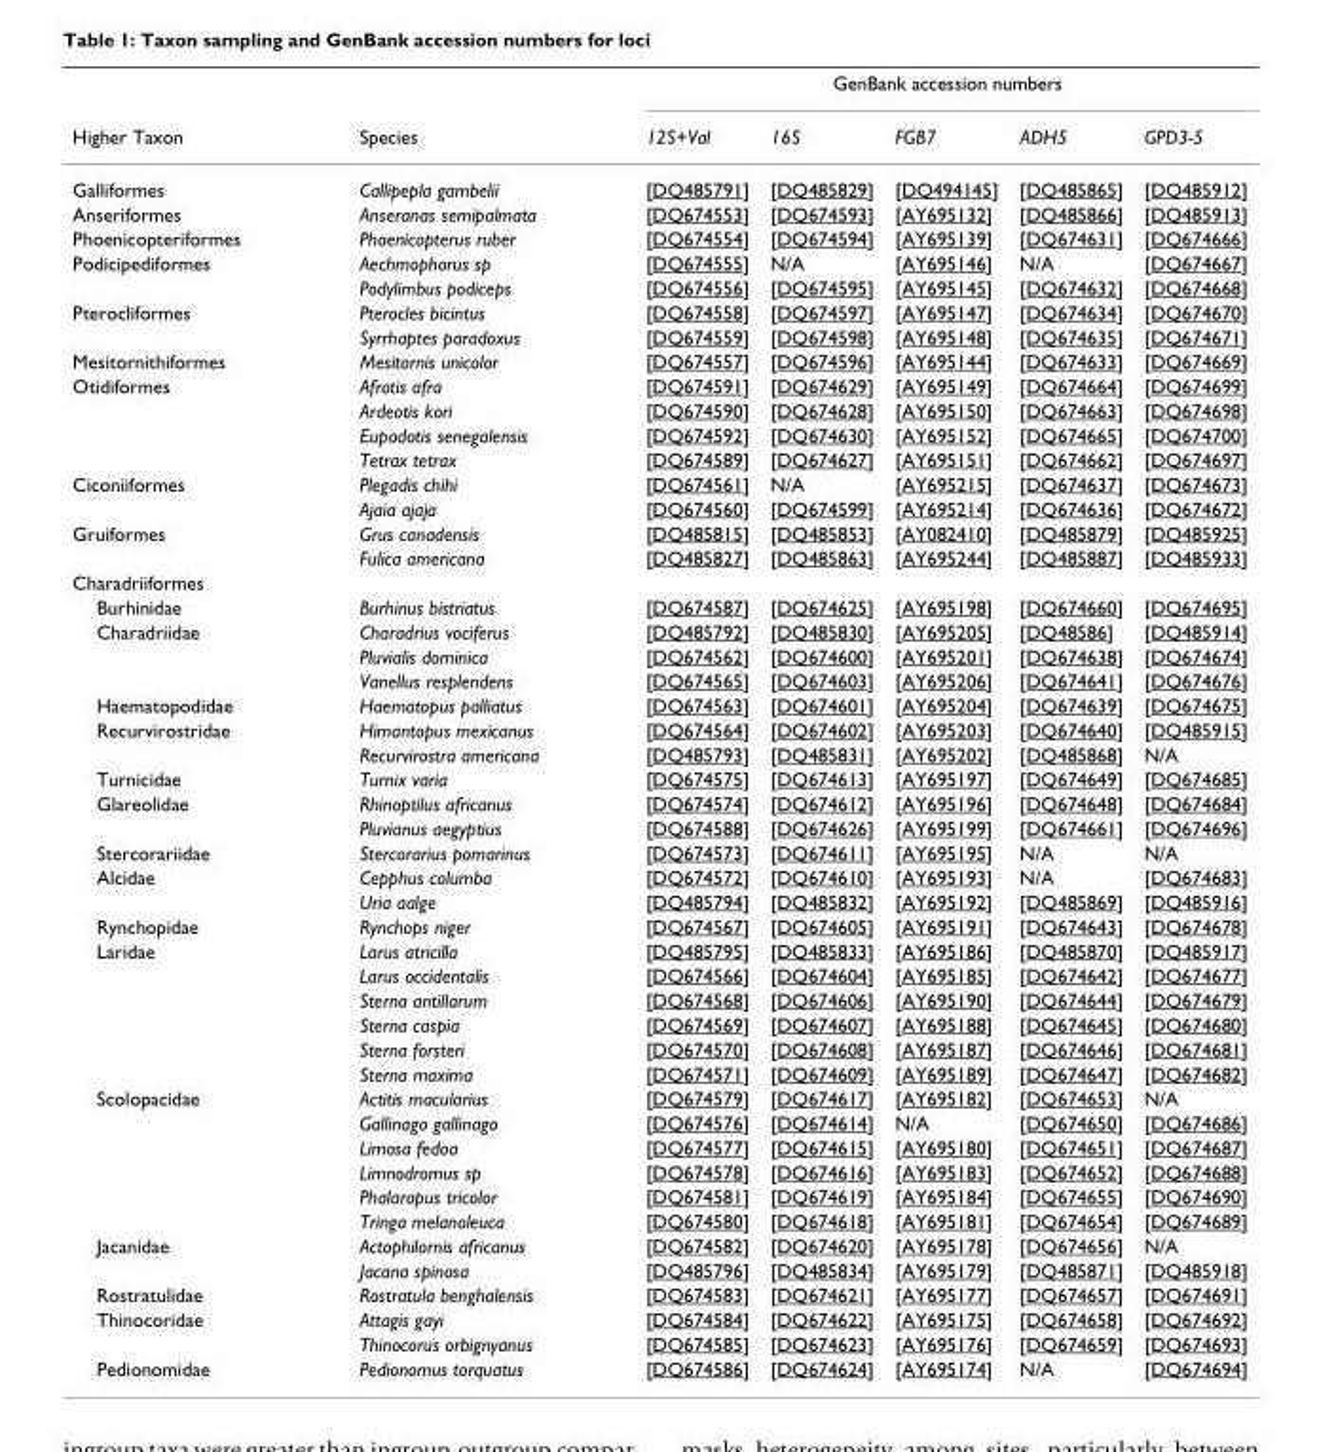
<table><thead><tr><td rowspan="2">Higher Taxon</td><td rowspan="2">Species</td><td colspan="5">GenBank accession numbers</td></tr><tr><td>12S+Val</td><td>16S</td><td>FGB7</td><td>ADH5</td><td>GPD3-5</td></tr></thead><tbody><tr><td>Galliformes</td><td>Callipepla gambelii</td><td>[DQ485791]</td><td>[DQ485829]</td><td>[DQ494145]</td><td>[DQ485865]</td><td>[DQ485912]</td></tr><tr><td>Anseriformes</td><td>Anseranas semipalmata</td><td>[DQ674553]</td><td>[DQ674593]</td><td>[AY695132]</td><td>[DQ485866]</td><td>[DQ485913]</td></tr><tr><td>Phoenicopteriformes</td><td>Phoenicopterus ruber</td><td>[DQ674554]</td><td>[DQ674594]</td><td>[AY695139]</td><td>[DQ674631]</td><td>[DQ674666]</td></tr><tr><td rowspan="2">Podicipediformes</td><td>Aechmophorus sp</td><td>[DQ674555]</td><td>N/A</td><td>[AY695146]</td><td>N/A</td><td>[DQ674667]</td></tr><tr><td>Podylimbus podiceps</td><td>[DQ674556]</td><td>[DQ674595]</td><td>[AY695145]</td><td>[DQ674632]</td><td>[DQ674668]</td></tr><tr><td rowspan="2">Pterocliformes</td><td>Pterocles bicintus</td><td>[DQ674558]</td><td>[DQ674597]</td><td>[AY695147]</td><td>[DQ674634]</td><td>[DQ674670]</td></tr><tr><td>Syrrhaptes paradoxus</td><td>[DQ674559]</td><td>[DQ674598]</td><td>[AY695148]</td><td>[DQ674635]</td><td>[DQ674671]</td></tr><tr><td>Mesitornithiformes</td><td>Mesitornis unicolor</td><td>[DQ674557]</td><td>[DQ674596]</td><td>[AY695144]</td><td>[DQ674633]</td><td>[DQ674669]</td></tr><tr><td rowspan="4">Otidiformes</td><td>Afrotis afra</td><td>[DQ674591]</td><td>[DQ674629]</td><td>[AY695149]</td><td>[DQ674664]</td><td>[DQ674699]</td></tr><tr><td>Ardeotis kori</td><td>[DQ674590]</td><td>[DQ674628]</td><td>[AY695150]</td><td>[DQ674663]</td><td>[DQ674698]</td></tr><tr><td>Eupodotis senegalensis</td><td>[DQ674592]</td><td>[DQ674630]</td><td>[AY695152]</td><td>[DQ674665]</td><td>[DQ674700]</td></tr><tr><td>Tetrax tetrax</td><td>[DQ674589]</td><td>[DQ674627]</td><td>[AY695151]</td><td>[DQ674662]</td><td>[DQ674697]</td></tr><tr><td rowspan="2">Ciconiiformes</td><td>Plegadis chihi</td><td>[DQ674561]</td><td>N/A</td><td>[AY695215]</td><td>[DQ674637]</td><td>[DQ674673]</td></tr><tr><td>Ajaia ajaja</td><td>[DQ674560]</td><td>[DQ674599]</td><td>[AY695214]</td><td>[DQ674636]</td><td>[DQ674672]</td></tr><tr><td rowspan="2">Gruiformes</td><td>Grus canadensis</td><td>[DQ485815]</td><td>[DQ485853]</td><td>[AY082410]</td><td>[DQ485879]</td><td>[DQ485925]</td></tr><tr><td>Fulica americana</td><td>[DQ485827]</td><td>[DQ485863]</td><td>[AY695244]</td><td>[DQ485887]</td><td>[DQ485933]</td></tr><tr><td colspan="7">Charadriiformes</td></tr><tr><td>Burhinidae</td><td>Burhinus bistriatus</td><td>[DQ674587]</td><td>[DQ674625]</td><td>[AY695198]</td><td>[DQ674660]</td><td>[DQ674695]</td></tr><tr><td rowspan="3">Charadriidae</td><td>Charadrius vociferus</td><td>[DQ485792]</td><td>[DQ485830]</td><td>[AY695205]</td><td>[DQ48586]</td><td>[DQ485914]</td></tr><tr><td>Pluvialis dominica</td><td>[DQ674562]</td><td>[DQ674600]</td><td>[AY695201]</td><td>[DQ674638]</td><td>[DQ674674]</td></tr><tr><td>Vanellus resplendens</td><td>[DQ674565]</td><td>[DQ674603]</td><td>[AY695206]</td><td>[DQ674641]</td><td>[DQ674676]</td></tr><tr><td>Haematopodidae</td><td>Haematopus palliatus</td><td>[DQ674563]</td><td>[DQ674601]</td><td>[AY695204]</td><td>[DQ674639]</td><td>[DQ674675]</td></tr><tr><td rowspan="2">Recurvirostridae</td><td>Himantopus mexicanus</td><td>[DQ674564]</td><td>[DQ674602]</td><td>[AY695203]</td><td>[DQ674640]</td><td>[DQ485915]</td></tr><tr><td>Recurvirostra americana</td><td>[DQ485793]</td><td>[DQ485831]</td><td>[AY695202]</td><td>[DQ485868]</td><td>N/A</td></tr><tr><td>Turnicidae</td><td>Turnix varia</td><td>[DQ674575]</td><td>[DQ674613]</td><td>[AY695197]</td><td>[DQ674649]</td><td>[DQ674685]</td></tr><tr><td rowspan="2">Glareolidae</td><td>Rhinoptilus africanus</td><td>[DQ674574]</td><td>[DQ674612]</td><td>[AY695196]</td><td>[DQ674648]</td><td>[DQ674684]</td></tr><tr><td>Pluvianus aegyptius</td><td>[DQ674588]</td><td>[DQ674626]</td><td>[AY695199]</td><td>[DQ674661]</td><td>[DQ674696]</td></tr><tr><td>Stercorariidae</td><td>Stercorarius pomarinus</td><td>[DQ674573]</td><td>[DQ674611]</td><td>[AY695195]</td><td>N/A</td><td>N/A</td></tr><tr><td rowspan="2">Alcidae</td><td>Cepphus columba</td><td>[DQ674572]</td><td>[DQ674610]</td><td>[AY695193]</td><td>N/A</td><td>[DQ674683]</td></tr><tr><td>Uria aalge</td><td>[DQ485794]</td><td>[DQ485832]</td><td>[AY695192]</td><td>[DQ485869]</td><td>[DQ485916]</td></tr><tr><td>Rynchopidae</td><td>Rynchops niger</td><td>[DQ674567]</td><td>[DQ674605]</td><td>[AY695191]</td><td>[DQ674643]</td><td>[DQ674678]</td></tr><tr><td rowspan="6">Laridae</td><td>Larus atricilla</td><td>[DQ485795]</td><td>[DQ485833]</td><td>[AY695186]</td><td>[DQ485870]</td><td>[DQ485917]</td></tr><tr><td>Larus occidentalis</td><td>[DQ674566]</td><td>[DQ674604]</td><td>[AY695185]</td><td>[DQ674642]</td><td>[DQ674677]</td></tr><tr><td>Sterna antillarum</td><td>[DQ674568]</td><td>[DQ674606]</td><td>[AY695190]</td><td>[DQ674644]</td><td>[DQ674679]</td></tr><tr><td>Sterna caspia</td><td>[DQ674569]</td><td>[DQ674607]</td><td>[AY695188]</td><td>[DQ674645]</td><td>[DQ674680]</td></tr><tr><td>Sterna forsteri</td><td>[DQ674570]</td><td>[DQ674608]</td><td>[AY695187]</td><td>[DQ674646]</td><td>[DQ674681]</td></tr><tr><td>Sterna maxima</td><td>[DQ674571]</td><td>[DQ674609]</td><td>[AY695189]</td><td>[DQ674647]</td><td>[DQ674682]</td></tr><tr><td rowspan="6">Scolopacidae</td><td>Actitis macularius</td><td>[DQ674579]</td><td>[DQ674617]</td><td>[AY695182]</td><td>[DQ674653]</td><td>N/A</td></tr><tr><td>Gallinago gallinago</td><td>[DQ674576]</td><td>[DQ674614]</td><td>N/A</td><td>[DQ674650]</td><td>[DQ674686]</td></tr><tr><td>Limosa fedoa</td><td>[DQ674577]</td><td>[DQ674615]</td><td>[AY695180]</td><td>[DQ674651]</td><td>[DQ674687]</td></tr><tr><td>Limnodromus sp</td><td>[DQ674578]</td><td>[DQ674616]</td><td>[AY695183]</td><td>[DQ674652]</td><td>[DQ674688]</td></tr><tr><td>Phalaropus tricolor</td><td>[DQ674581]</td><td>[DQ674619]</td><td>[AY695184]</td><td>[DQ674655]</td><td>[DQ674690]</td></tr><tr><td>Tringa melanoleuca</td><td>[DQ674580]</td><td>[DQ674618]</td><td>[AY695181]</td><td>[DQ674654]</td><td>[DQ674689]</td></tr><tr><td rowspan="2">Jacanidae</td><td>Actophilornis africanus</td><td>[DQ674582]</td><td>[DQ674620]</td><td>[AY695178]</td><td>[DQ674656]</td><td>N/A</td></tr><tr><td>Jacana spinosa</td><td>[DQ485796]</td><td>[DQ485834]</td><td>[AY695179]</td><td>[DQ485871]</td><td>[DQ485918]</td></tr><tr><td>Rostratulidae</td><td>Rostratula benghalensis</td><td>[DQ674583]</td><td>[DQ674621]</td><td>[AY695177]</td><td>[DQ674657]</td><td>[DQ674691]</td></tr><tr><td rowspan="2">Thinocoridae</td><td>Attagis gayi</td><td>[DQ674584]</td><td>[DQ674622]</td><td>[AY695175]</td><td>[DQ674658]</td><td>[DQ674692]</td></tr><tr><td>Thinocorus orbignyanus</td><td>[DQ674585]</td><td>[DQ674623]</td><td>[AY695176]</td><td>[DQ674659]</td><td>[DQ674693]</td></tr><tr><td>Pedionomidae</td><td>Pedionomus torquatus</td><td>[DQ674586]</td><td>[DQ674624]</td><td>[AY695174]</td><td>N/A</td><td>[DQ674694]</td></tr></tbody></table>